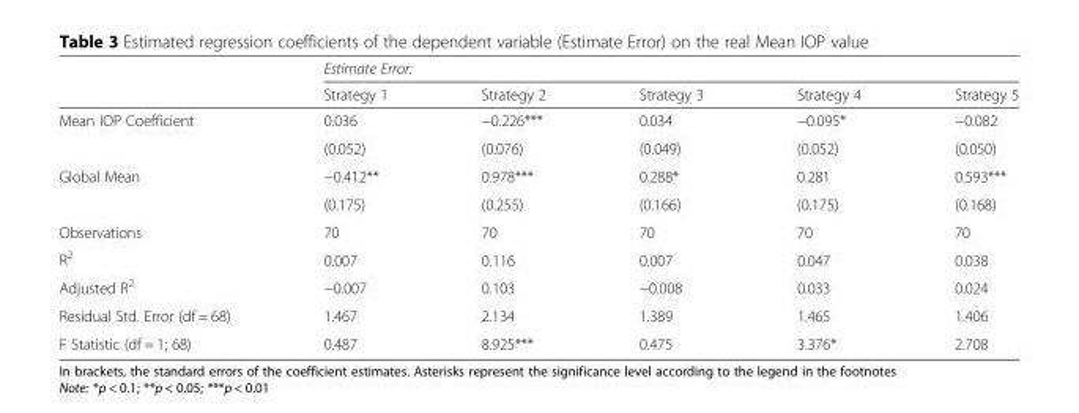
<table><thead><tr><td rowspan="2"></td><td colspan="5">Estimate Error:</td></tr><tr><td>Strategy 1</td><td>Strategy 2</td><td>Strategy 3</td><td>Strategy 4</td><td>Strategy 5</td></tr></thead><tbody><tr><td rowspan="2">Mean IOP Coefficient</td><td>0.036</td><td>−0.226***</td><td>0.034</td><td>−0.095*</td><td>−0.082</td></tr><tr><td>(0.052)</td><td>(0.076)</td><td>(0.049)</td><td>(0.052)</td><td>(0.050)</td></tr><tr><td rowspan="2">Global Mean</td><td>−0.412**</td><td>0.978***</td><td>0.288*</td><td>0.281</td><td>0.593***</td></tr><tr><td>(0.175)</td><td>(0.255)</td><td>(0.166)</td><td>(0.175)</td><td>(0.168)</td></tr><tr><td>Observations</td><td>70</td><td>70</td><td>70</td><td>70</td><td>70</td></tr><tr><td>R<sup>2</sup></td><td>0.007</td><td>0.116</td><td>0.007</td><td>0.047</td><td>0.038</td></tr><tr><td>Adjusted R<sup>2</sup></td><td>−0.007</td><td>0.103</td><td>−0.008</td><td>0.033</td><td>0.024</td></tr><tr><td>Residual Std. Error (df = 68)</td><td>1.467</td><td>2.134</td><td>1.389</td><td>1.465</td><td>1.406</td></tr><tr><td>F Statistic (df = 1; 68)</td><td>0.487</td><td>8.925***</td><td>0.475</td><td>3.376*</td><td>2.708</td></tr></tbody></table>